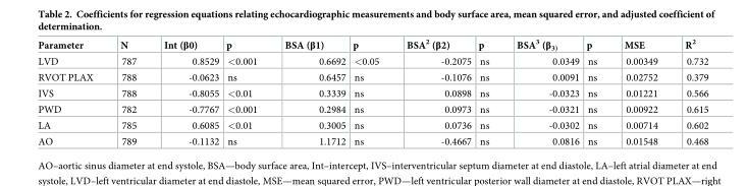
<table><thead><tr><td>Parameter</td><td>N</td><td>Int (β0)</td><td>p</td><td>BSA (β1)</td><td>p</td><td>BSA<sup>2</sup> (β2)</td><td>p</td><td>BSA<sup>3</sup> (β<sub>3)</sub></td><td>p</td><td>MSE</td><td>R<sup>2</sup></td></tr></thead><tbody><tr><td>LVD</td><td>787</td><td>0.8529</td><td>&lt;0.001</td><td>0.6692</td><td>&lt;0.05</td><td>-0.2075</td><td>ns</td><td>0.0349</td><td>ns</td><td>0.00349</td><td>0.732</td></tr><tr><td>RVOT PLAX</td><td>788</td><td>-0.0623</td><td>ns</td><td>0.6457</td><td>ns</td><td>-0.1076</td><td>ns</td><td>0.0091</td><td>ns</td><td>0.02752</td><td>0.379</td></tr><tr><td>IVS</td><td>788</td><td>-0.8055</td><td>&lt;0.01</td><td>0.3339</td><td>ns</td><td>0.0898</td><td>ns</td><td>-0.0323</td><td>ns</td><td>0.01221</td><td>0.566</td></tr><tr><td>PWD</td><td>782</td><td>-0.7767</td><td>&lt;0.001</td><td>0.2984</td><td>ns</td><td>0.0973</td><td>ns</td><td>-0.0321</td><td>ns</td><td>0.00922</td><td>0.615</td></tr><tr><td>LA</td><td>785</td><td>0.6085</td><td>&lt;0.01</td><td>0.3005</td><td>ns</td><td>0.0736</td><td>ns</td><td>-0.0302</td><td>ns</td><td>0.00714</td><td>0.602</td></tr><tr><td>AO</td><td>789</td><td>-0.1132</td><td>ns</td><td>1.1712</td><td>ns</td><td>-0.4667</td><td>ns</td><td>0.0816</td><td>ns</td><td>0.01548</td><td>0.468</td></tr></tbody></table>